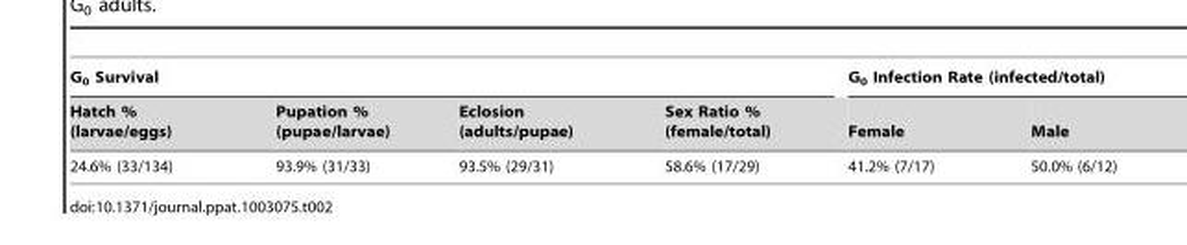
<table><thead><tr><td colspan="4">G<sub>0</sub> Survival</td><td colspan="2">G<sub>0</sub> Infection Rate (infected/total)</td></tr><tr><td>Hatch % (larvae/eggs)</td><td>Pupation % (pupae/larvae)</td><td>Eclosion (adults/pupae)</td><td>Sex Ratio % (female/total)</td><td>Female</td><td>Male</td></tr></thead><tbody><tr><td>24.6% (33/134)</td><td>93.9% (31/33)</td><td>93.5% (29/31)</td><td>58.6% (17/29)</td><td>41.2% (7/17)</td><td>50.0% (6/12)</td></tr></tbody></table>